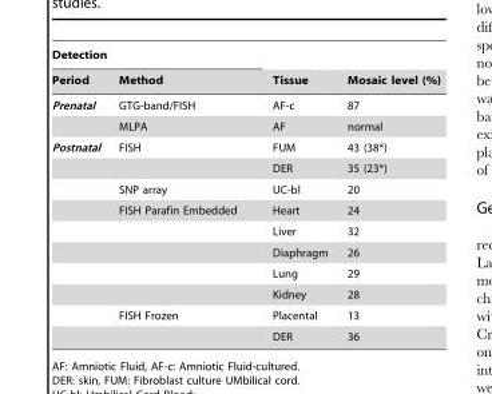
<table><thead><tr><td colspan="2">Detection</td><td rowspan="2">Tissue</td><td rowspan="2">Mosaic level (%)</td></tr><tr><td>Period</td><td>Method</td></tr></thead><tbody><tr><td rowspan="2">Prenatal</td><td>GTG-band/FISH</td><td>AF-c</td><td>87</td></tr><tr><td>MLPA</td><td>AF</td><td>normal</td></tr><tr><td rowspan="10">Postnatal</td><td>FISH</td><td>FUM</td><td>43 (38*)</td></tr><tr><td></td><td>DER</td><td>35 (23*)</td></tr><tr><td>SNP array</td><td>UC-bl</td><td>20</td></tr><tr><td>FISH Parafin Embedded</td><td>Heart</td><td>24</td></tr><tr><td></td><td>Liver</td><td>32</td></tr><tr><td></td><td>Diaphragm</td><td>26</td></tr><tr><td></td><td>Lung</td><td>29</td></tr><tr><td></td><td>Kidney</td><td>28</td></tr><tr><td>FISH Frozen</td><td>Placental</td><td>13</td></tr><tr><td></td><td>DER</td><td>36</td></tr></tbody></table>